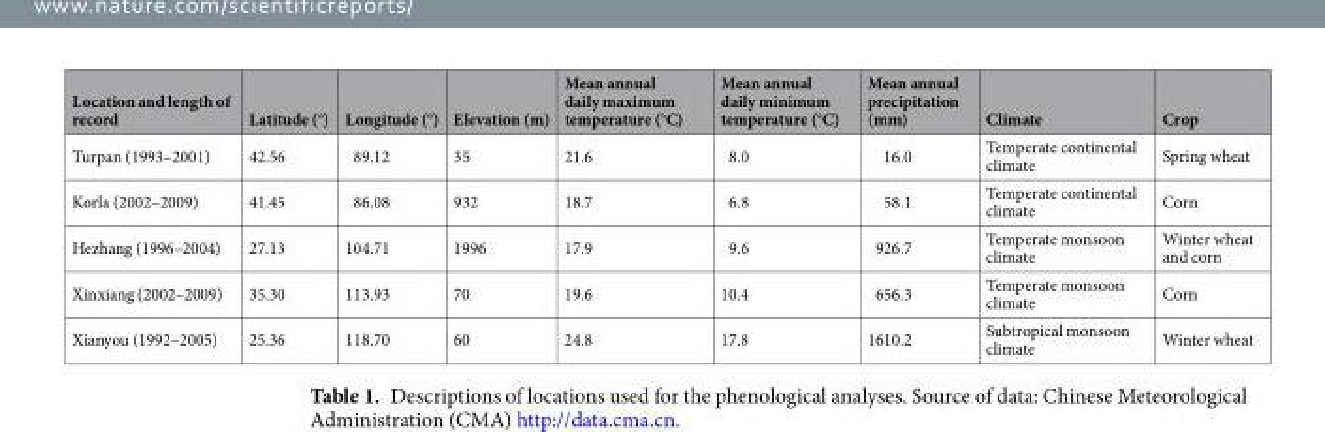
<table><thead><tr><td>Location and length of record</td><td>Latitude (°)</td><td>Longitude (°)</td><td>Elevation (m)</td><td>Mean annual daily maximum temperature (°C)</td><td>Mean annual daily minimum temperature (°C)</td><td>Mean annual precipitation (mm)</td><td>Climate</td><td>Crop</td></tr></thead><tbody><tr><td>Turpan (1993–2001)</td><td>42.56</td><td>89.12</td><td>35</td><td>21.6</td><td>8.0</td><td>16.0</td><td>Temperate continental climate</td><td>Spring wheat</td></tr><tr><td>Korla (2002–2009)</td><td>41.45</td><td>86.08</td><td>932</td><td>18.7</td><td>6.8</td><td>58.1</td><td>Temperate continental climate</td><td>Corn</td></tr><tr><td>Hezhang (1996–2004)</td><td>27.13</td><td>104.71</td><td>1996</td><td>17.9</td><td>9.6</td><td>926.7</td><td>Temperate monsoon climate</td><td>Winter wheat and corn</td></tr><tr><td>Xinxiang (2002–2009)</td><td>35.30</td><td>113.93</td><td>70</td><td>19.6</td><td>10.4</td><td>656.3</td><td>Temperate monsoon climate</td><td>Corn</td></tr><tr><td>Xianyou (1992–2005)</td><td>25.36</td><td>118.70</td><td>60</td><td>24.8</td><td>17.8</td><td>1610.2</td><td>Subtropical monsoon climate</td><td>Winter wheat</td></tr></tbody></table>